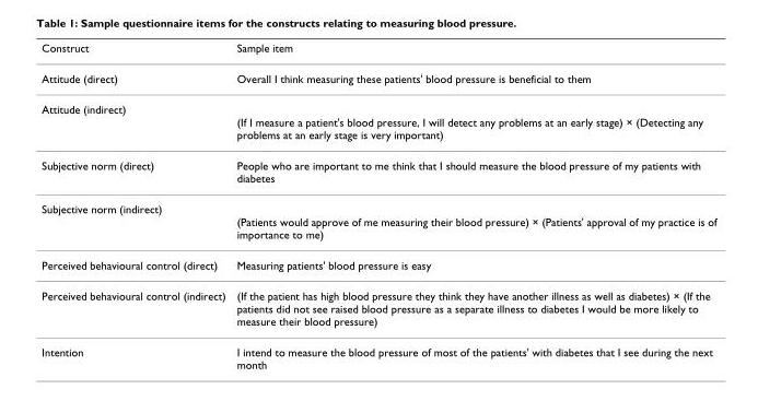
<table><thead><tr><td>Construct</td><td>Sample item</td></tr></thead><tbody><tr><td>Attitude (direct)</td><td>Overall I think measuring these patients&#x27; blood pressure is beneficial to them</td></tr><tr><td>Attitude (indirect)</td><td>(If I measure a patient&#x27;s blood pressure, I will detect any problems at an early stage) × (Detecting any problems at an early stage is very important)</td></tr><tr><td>Subjective norm (direct)</td><td>People who are important to me think that I should measure the blood pressure of my patients with diabetes</td></tr><tr><td>Subjective norm (indirect)</td><td>(Patients would approve of me measuring their blood pressure) × (Patients&#x27; approval of my practice is of importance to me)</td></tr><tr><td>Perceived behavioural control (direct)</td><td>Measuring patients&#x27; blood pressure is easy</td></tr><tr><td>Perceived behavioural control (indirect)</td><td>(If the patient has high blood pressure they think they have another illness as well as diabetes) × (If the patients did not see raised blood pressure as a separate illness to diabetes I would be more likely to measure their blood pressure)</td></tr><tr><td>Intention</td><td>I intend to measure the blood pressure of most of the patients&#x27; with diabetes that I see during the next month</td></tr></tbody></table>